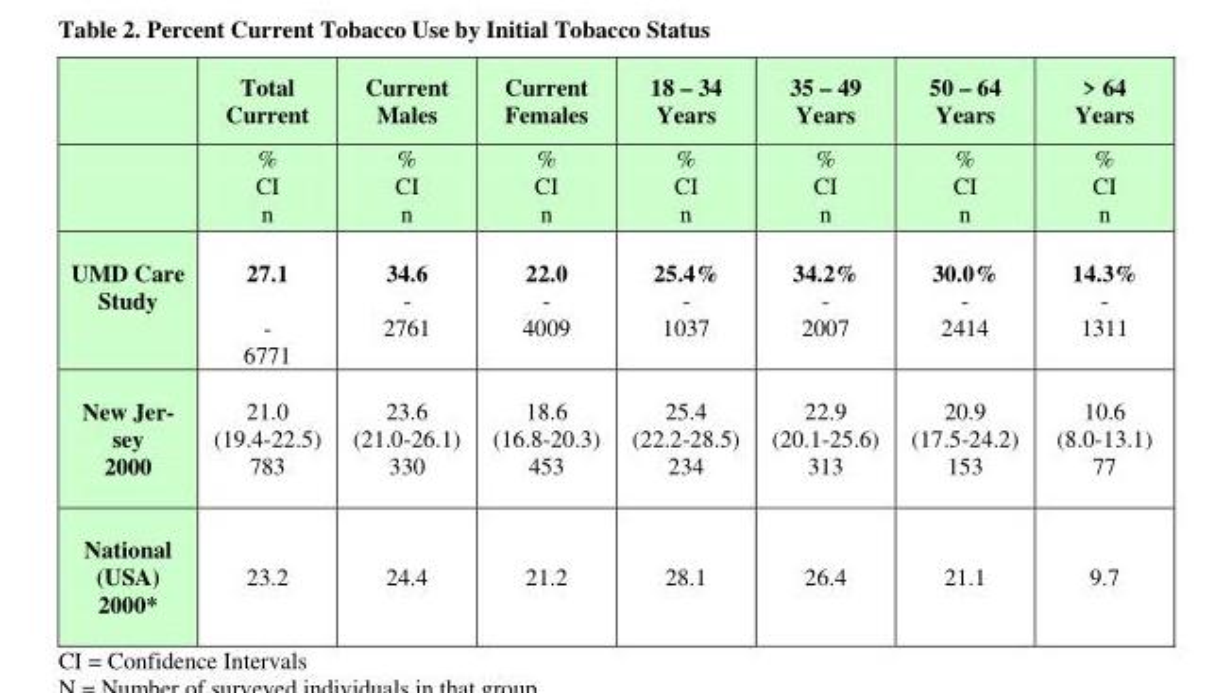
<table><thead><tr><td></td><td>Total Current</td><td>Current Males</td><td>Current Females</td><td>18 – 34 Years</td><td>35 – 49 Years</td><td>50 – 64 Years</td><td>&gt; 64 Years</td></tr></thead><tbody><tr><td></td><td>% CI n</td><td>% CI n</td><td>% CI n</td><td>% CI n</td><td>% CI n</td><td>% CI n</td><td>% CI n</td></tr><tr><td>UMD Care Study</td><td>27.1 - 6771</td><td>34.6 - 2761</td><td>22.0 - 4009</td><td>25.4% - 1037</td><td>34.2% - 2007</td><td>30.0% - 2414</td><td>14.3% - 1311</td></tr><tr><td>New Jer- sey 2000</td><td>21.0 (19.4-22.5) 783</td><td>23.6 (21.0-26.1) 330</td><td>18.6 (16.8-20.3) 453</td><td>25.4 (22.2-28.5) 234</td><td>22.9 (20.1-25.6) 313</td><td>20.9 (17.5-24.2) 153</td><td>10.6 (8.0-13.1) 77</td></tr><tr><td>National (USA) 2000*</td><td>23.2</td><td>24.4</td><td>21.2</td><td>28.1</td><td>26.4</td><td>21.1</td><td>9.7</td></tr></tbody></table>